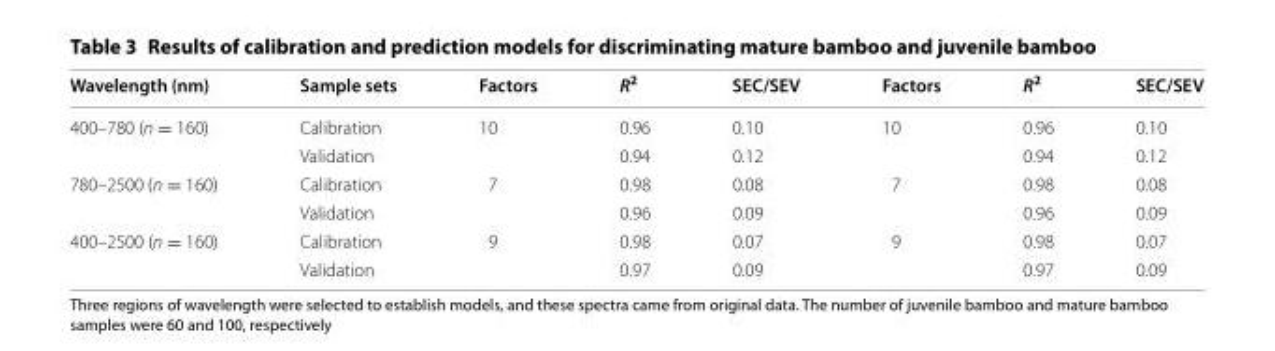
<table><thead><tr><td>Wavelength (nm)</td><td>Sample sets</td><td>Factors</td><td>R<sup>2</sup></td><td>SEC/SEV</td><td>Factors</td><td>R<sup>2</sup></td><td>SEC/SEV</td></tr></thead><tbody><tr><td rowspan="2">400–780 (n = 160)</td><td>Calibration</td><td rowspan="2">10</td><td>0.96</td><td>0.10</td><td rowspan="2">10</td><td>0.96</td><td>0.10</td></tr><tr><td>Validation</td><td>0.94</td><td>0.12</td><td>0.94</td><td>0.12</td></tr><tr><td rowspan="2">780–2500 (n = 160)</td><td>Calibration</td><td rowspan="2">7</td><td>0.98</td><td>0.08</td><td rowspan="2">7</td><td>0.98</td><td>0.08</td></tr><tr><td>Validation</td><td>0.96</td><td>0.09</td><td>0.96</td><td>0.09</td></tr><tr><td rowspan="2">400–2500 (n = 160)</td><td>Calibration</td><td rowspan="2">9</td><td>0.98</td><td>0.07</td><td rowspan="2">9</td><td>0.98</td><td>0.07</td></tr><tr><td>Validation</td><td>0.97</td><td>0.09</td><td>0.97</td><td>0.09</td></tr></tbody></table>